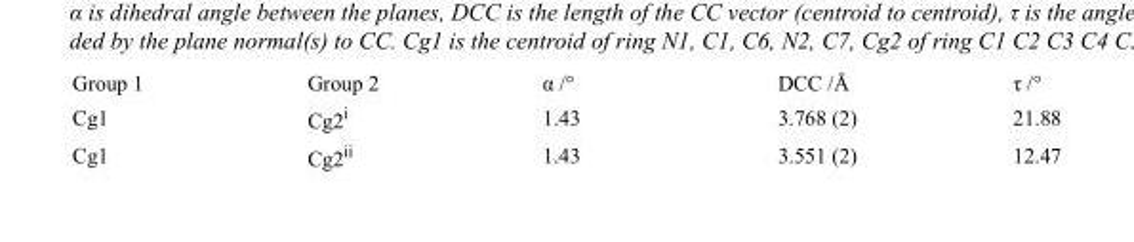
<table><tbody><tr><td>Group 1</td><td>Group 2</td><td>α /°</td><td>DCC /Å</td><td>τ /°</td></tr><tr><td>Cg1</td><td>Cg2<sup>i</sup></td><td>1.43</td><td>3.768 (2)</td><td>21.88</td></tr><tr><td>Cg1</td><td>Cg2<sup>ii</sup></td><td>1.43</td><td>3.551 (2)</td><td>12.47</td></tr></tbody></table>